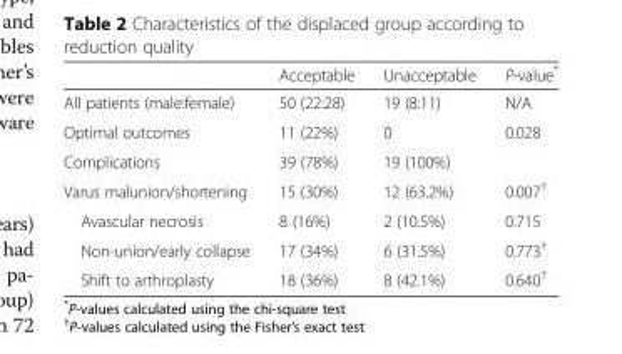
<table><thead><tr><td></td><td>Acceptable</td><td>Unacceptable</td><td>P-value*</td></tr></thead><tbody><tr><td>All patients (male:female)</td><td>50 (22:28)</td><td>19 (8:11)</td><td>N/A</td></tr><tr><td>Optimal outcomes</td><td>11 (22%)</td><td>0</td><td>0.028</td></tr><tr><td>Complications</td><td>39 (78%)</td><td>19 (100%)</td><td></td></tr><tr><td>Varus malunion/shortening</td><td>15 (30%)</td><td>12 (63.2%)</td><td>0.007<sup>†</sup></td></tr><tr><td>Avascular necrosis</td><td>8 (16%)</td><td>2 (10.5%)</td><td>0.715</td></tr><tr><td>Non-union/early collapse</td><td>17 (34%)</td><td>6 (31.5%)</td><td>0.773<sup>†</sup></td></tr><tr><td>Shift to arthroplasty</td><td>18 (36%)</td><td>8 (42.1%)</td><td>0.640<sup>†</sup></td></tr></tbody></table>